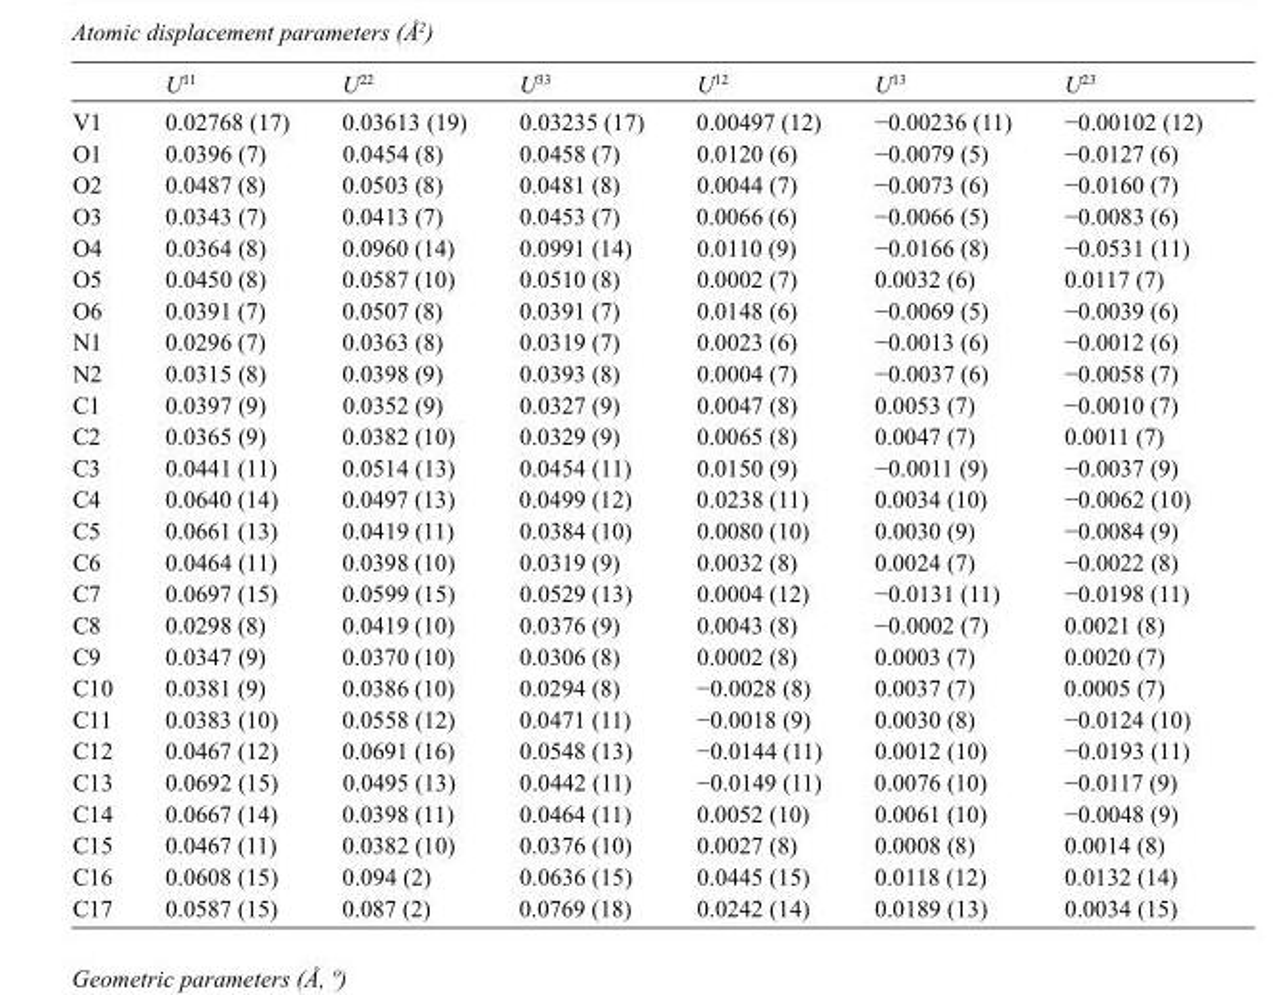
<table><thead><tr><td></td><td>U<sup>11</sup></td><td>U<sup>22</sup></td><td>U<sup>33</sup></td><td>U<sup>12</sup></td><td>U<sup>13</sup></td><td>U<sup>23</sup></td></tr></thead><tbody><tr><td>V1</td><td>0.02768 (17)</td><td>0.03613 (19)</td><td>0.03235 (17)</td><td>0.00497 (12)</td><td>−0.00236 (11)</td><td>−0.00102 (12)</td></tr><tr><td>O1</td><td>0.0396 (7)</td><td>0.0454 (8)</td><td>0.0458 (7)</td><td>0.0120 (6)</td><td>−0.0079 (5)</td><td>−0.0127 (6)</td></tr><tr><td>O2</td><td>0.0487 (8)</td><td>0.0503 (8)</td><td>0.0481 (8)</td><td>0.0044 (7)</td><td>−0.0073 (6)</td><td>−0.0160 (7)</td></tr><tr><td>O3</td><td>0.0343 (7)</td><td>0.0413 (7)</td><td>0.0453 (7)</td><td>0.0066 (6)</td><td>−0.0066 (5)</td><td>−0.0083 (6)</td></tr><tr><td>O4</td><td>0.0364 (8)</td><td>0.0960 (14)</td><td>0.0991 (14)</td><td>0.0110 (9)</td><td>−0.0166 (8)</td><td>−0.0531 (11)</td></tr><tr><td>O5</td><td>0.0450 (8)</td><td>0.0587 (10)</td><td>0.0510 (8)</td><td>0.0002 (7)</td><td>0.0032 (6)</td><td>0.0117 (7)</td></tr><tr><td>O6</td><td>0.0391 (7)</td><td>0.0507 (8)</td><td>0.0391 (7)</td><td>0.0148 (6)</td><td>−0.0069 (5)</td><td>−0.0039 (6)</td></tr><tr><td>N1</td><td>0.0296 (7)</td><td>0.0363 (8)</td><td>0.0319 (7)</td><td>0.0023 (6)</td><td>−0.0013 (6)</td><td>−0.0012 (6)</td></tr><tr><td>N2</td><td>0.0315 (8)</td><td>0.0398 (9)</td><td>0.0393 (8)</td><td>0.0004 (7)</td><td>−0.0037 (6)</td><td>−0.0058 (7)</td></tr><tr><td>C1</td><td>0.0397 (9)</td><td>0.0352 (9)</td><td>0.0327 (9)</td><td>0.0047 (8)</td><td>0.0053 (7)</td><td>−0.0010 (7)</td></tr><tr><td>C2</td><td>0.0365 (9)</td><td>0.0382 (10)</td><td>0.0329 (9)</td><td>0.0065 (8)</td><td>0.0047 (7)</td><td>0.0011 (7)</td></tr><tr><td>C3</td><td>0.0441 (11)</td><td>0.0514 (13)</td><td>0.0454 (11)</td><td>0.0150 (9)</td><td>−0.0011 (9)</td><td>−0.0037 (9)</td></tr><tr><td>C4</td><td>0.0640 (14)</td><td>0.0497 (13)</td><td>0.0499 (12)</td><td>0.0238 (11)</td><td>0.0034 (10)</td><td>−0.0062 (10)</td></tr><tr><td>C5</td><td>0.0661 (13)</td><td>0.0419 (11)</td><td>0.0384 (10)</td><td>0.0080 (10)</td><td>0.0030 (9)</td><td>−0.0084 (9)</td></tr><tr><td>C6</td><td>0.0464 (11)</td><td>0.0398 (10)</td><td>0.0319 (9)</td><td>0.0032 (8)</td><td>0.0024 (7)</td><td>−0.0022 (8)</td></tr><tr><td>C7</td><td>0.0697 (15)</td><td>0.0599 (15)</td><td>0.0529 (13)</td><td>0.0004 (12)</td><td>−0.0131 (11)</td><td>−0.0198 (11)</td></tr><tr><td>C8</td><td>0.0298 (8)</td><td>0.0419 (10)</td><td>0.0376 (9)</td><td>0.0043 (8)</td><td>−0.0002 (7)</td><td>0.0021 (8)</td></tr><tr><td>C9</td><td>0.0347 (9)</td><td>0.0370 (10)</td><td>0.0306 (8)</td><td>0.0002 (8)</td><td>0.0003 (7)</td><td>0.0020 (7)</td></tr><tr><td>C10</td><td>0.0381 (9)</td><td>0.0386 (10)</td><td>0.0294 (8)</td><td>−0.0028 (8)</td><td>0.0037 (7)</td><td>0.0005 (7)</td></tr><tr><td>C11</td><td>0.0383 (10)</td><td>0.0558 (12)</td><td>0.0471 (11)</td><td>−0.0018 (9)</td><td>0.0030 (8)</td><td>−0.0124 (10)</td></tr><tr><td>C12</td><td>0.0467 (12)</td><td>0.0691 (16)</td><td>0.0548 (13)</td><td>−0.0144 (11)</td><td>0.0012 (10)</td><td>−0.0193 (11)</td></tr><tr><td>C13</td><td>0.0692 (15)</td><td>0.0495 (13)</td><td>0.0442 (11)</td><td>−0.0149 (11)</td><td>0.0076 (10)</td><td>−0.0117 (9)</td></tr><tr><td>C14</td><td>0.0667 (14)</td><td>0.0398 (11)</td><td>0.0464 (11)</td><td>0.0052 (10)</td><td>0.0061 (10)</td><td>−0.0048 (9)</td></tr><tr><td>C15</td><td>0.0467 (11)</td><td>0.0382 (10)</td><td>0.0376 (10)</td><td>0.0027 (8)</td><td>0.0008 (8)</td><td>0.0014 (8)</td></tr><tr><td>C16</td><td>0.0608 (15)</td><td>0.094 (2)</td><td>0.0636 (15)</td><td>0.0445 (15)</td><td>0.0118 (12)</td><td>0.0132 (14)</td></tr><tr><td>C17</td><td>0.0587 (15)</td><td>0.087 (2)</td><td>0.0769 (18)</td><td>0.0242 (14)</td><td>0.0189 (13)</td><td>0.0034 (15)</td></tr></tbody></table>